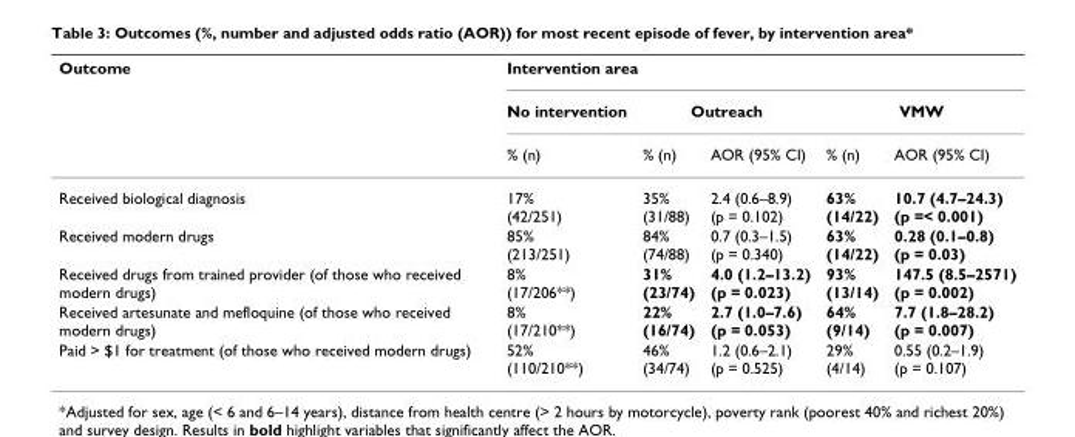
<table><thead><tr><td rowspan="3">Outcome</td><td colspan="5">Intervention area</td></tr><tr><td rowspan="2">No intervention % (n)</td><td colspan="2">Outreach</td><td colspan="2">VMW</td></tr><tr><td>% (n)</td><td>AOR (95% CI)</td><td>% (n)</td><td>AOR (95% CI)</td></tr></thead><tbody><tr><td>Received biological diagnosis</td><td>17% (42/251)</td><td>35% (31/88)</td><td>2.4 (0.6–8.9) (p = 0.102)</td><td>63% (14/22)</td><td>10.7 (4.7–24.3) (p =&lt; 0.001)</td></tr><tr><td>Received modern drugs</td><td>85% (213/251)</td><td>84% (74/88)</td><td>0.7 (0.3–1.5) (p = 0.340)</td><td>63% (14/22)</td><td>0.28 (0.1–0.8) (p = 0.03)</td></tr><tr><td>Received drugs from trained provider (of those who received modern drugs)</td><td>8% (17/206**)</td><td>31% (23/74)</td><td>4.0 (1.2–13.2) (p = 0.023)</td><td>93% (13/14)</td><td>147.5 (8.5–2571) (p = 0.002)</td></tr><tr><td>Received artesunate and mefloquine (of those who received modern drugs)</td><td>8% (17/210**)</td><td>22% (16/74)</td><td>2.7 (1.0–7.6) (p = 0.053)</td><td>64% (9/14)</td><td>7.7 (1.8–28.2) (p = 0.007)</td></tr><tr><td>Paid &gt; $1 for treatment (of those who received modern drugs)</td><td>52% (110/210**)</td><td>46% (34/74)</td><td>1.2 (0.6–2.1) (p = 0.525)</td><td>29% (4/14)</td><td>0.55 (0.2–1.9) (p = 0.107)</td></tr></tbody></table>